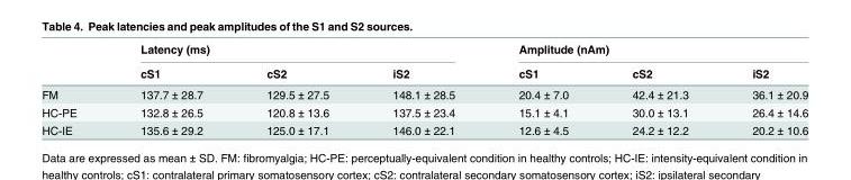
<table><thead><tr><td rowspan="2"></td><td colspan="3">Latency (ms)</td><td colspan="3">Amplitude (nAm)</td></tr><tr><td>cS1</td><td>cS2</td><td>iS2</td><td>cS1</td><td>cS2</td><td>iS2</td></tr></thead><tbody><tr><td>FM</td><td>137.7 ± 28.7</td><td>129.5 ± 27.5</td><td>148.1 ± 28.5</td><td>20.4 ± 7.0</td><td>42.4 ± 21.3</td><td>36.1 ± 20.9</td></tr><tr><td>HC-PE</td><td>132.8 ± 26.5</td><td>120.8 ± 13.6</td><td>137.5 ± 23.4</td><td>15.1 ± 4.1</td><td>30.0 ± 13.1</td><td>26.4 ± 14.6</td></tr><tr><td>HC-IE</td><td>135.6 ± 29.2</td><td>125.0 ± 17.1</td><td>146.0 ± 22.1</td><td>12.6 ± 4.5</td><td>24.2 ± 12.2</td><td>20.2 ± 10.6</td></tr></tbody></table>